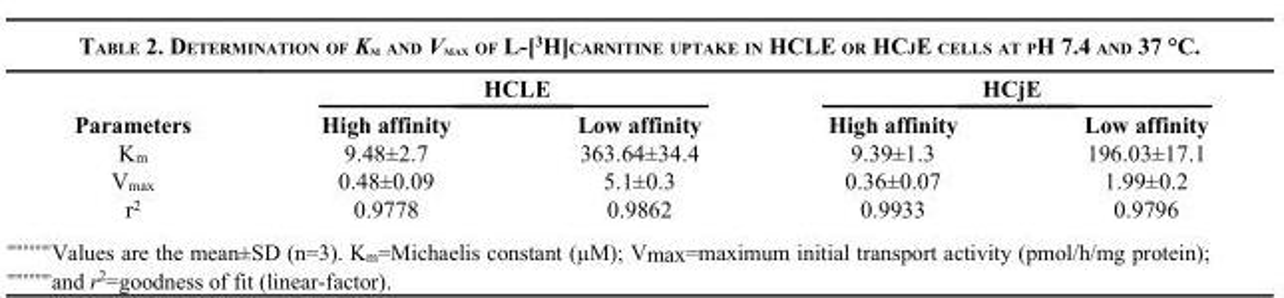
<table><thead><tr><td rowspan="2">Parameters</td><td colspan="2">HCLE</td><td colspan="2">HCjE</td></tr><tr><td>High affinity</td><td>Low affinity</td><td>High affinity</td><td>Low affinity</td></tr></thead><tbody><tr><td>K<sub>m</sub></td><td>9.48±2.7</td><td>363.64±34.4</td><td>9.39±1.3</td><td>196.03±17.1</td></tr><tr><td>V<sub>max</sub></td><td>0.48±0.09</td><td>5.1±0.3</td><td>0.36±0.07</td><td>1.99±0.2</td></tr><tr><td>r<sup>2</sup></td><td>0.9778</td><td>0.9862</td><td>0.9933</td><td>0.9796</td></tr></tbody></table>